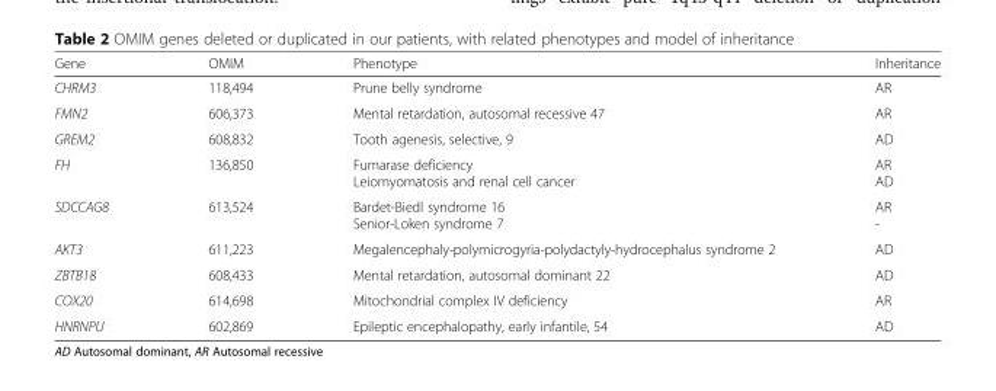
<table><thead><tr><td>Gene</td><td>OMIM</td><td>Phenotype</td><td>Inheritance</td></tr></thead><tbody><tr><td>CHRM3</td><td>118,494</td><td>Prune belly syndrome</td><td>AR</td></tr><tr><td>FMN2</td><td>606,373</td><td>Mental retardation, autosomal recessive 47</td><td>AR</td></tr><tr><td>GREM2</td><td>608,832</td><td>Tooth agenesis, selective, 9</td><td>AD</td></tr><tr><td>FH</td><td>136,850</td><td>Fumarase deficiency Leiomyomatosis and renal cell cancer</td><td>AR AD</td></tr><tr><td>SDCCAG8</td><td>613,524</td><td>Bardet-Biedl syndrome 16 Senior-Loken syndrome 7</td><td>AR -</td></tr><tr><td>AKT3</td><td>611,223</td><td>Megalencephaly-polymicrogyria-polydactyly-hydrocephalus syndrome 2</td><td>AD</td></tr><tr><td>ZBTB18</td><td>608,433</td><td>Mental retardation, autosomal dominant 22</td><td>AD</td></tr><tr><td>COX20</td><td>614,698</td><td>Mitochondrial complex IV deficiency</td><td>AR</td></tr><tr><td>HNRNPU</td><td>602,869</td><td>Epileptic encephalopathy, early infantile, 54</td><td>AD</td></tr></tbody></table>